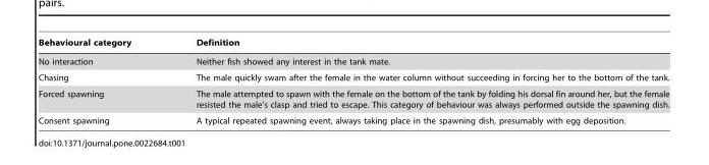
<table><thead><tr><td>Behavioural category</td><td>Definition</td></tr></thead><tbody><tr><td>No interaction</td><td>Neither fish showed any interest in the tank mate.</td></tr><tr><td>Chasing</td><td>The male quickly swam after the female in the water column without succeeding in forcing her to the bottom of the tank.</td></tr><tr><td>Forced spawning</td><td>The male attempted to spawn with the female on the bottom of the tank by folding his dorsal fin around her, but the female resisted the male’s clasp and tried to escape. This category of behaviour was always performed outside the spawning dish.</td></tr><tr><td>Consent spawning</td><td>A typical repeated spawning event, always taking place in the spawning dish, presumably with egg deposition.</td></tr></tbody></table>